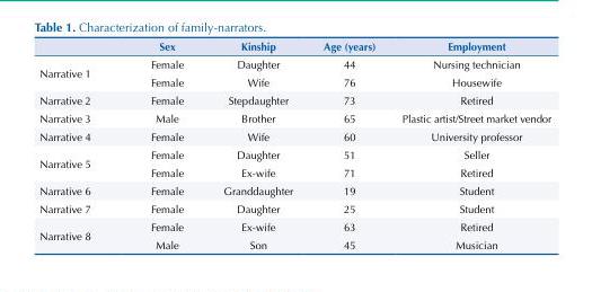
<table><thead><tr><td></td><td>Sex</td><td>Kinship</td><td>Age (years)</td><td>Employment</td></tr></thead><tbody><tr><td rowspan="2">Narrative 1</td><td>Female</td><td>Daughter</td><td>44</td><td>Nursing technician</td></tr><tr><td>Female</td><td>Wife</td><td>76</td><td>Housewife</td></tr><tr><td>Narrative 2</td><td>Female</td><td>Stepdaughter</td><td>73</td><td>Retired</td></tr><tr><td>Narrative 3</td><td>Male</td><td>Brother</td><td>65</td><td>Plastic artist/Street market vendor</td></tr><tr><td>Narrative 4</td><td>Female</td><td>Wife</td><td>60</td><td>University professor</td></tr><tr><td rowspan="2">Narrative 5</td><td>Female</td><td>Daughter</td><td>51</td><td>Seller</td></tr><tr><td>Female</td><td>Ex-wife</td><td>71</td><td>Retired</td></tr><tr><td>Narrative 6</td><td>Female</td><td>Granddaughter</td><td>19</td><td>Student</td></tr><tr><td>Narrative 7</td><td>Female</td><td>Daughter</td><td>25</td><td>Student</td></tr><tr><td rowspan="2">Narrative 8</td><td>Female</td><td>Ex-wife</td><td>63</td><td>Retired</td></tr><tr><td>Male</td><td>Son</td><td>45</td><td>Musician</td></tr></tbody></table>